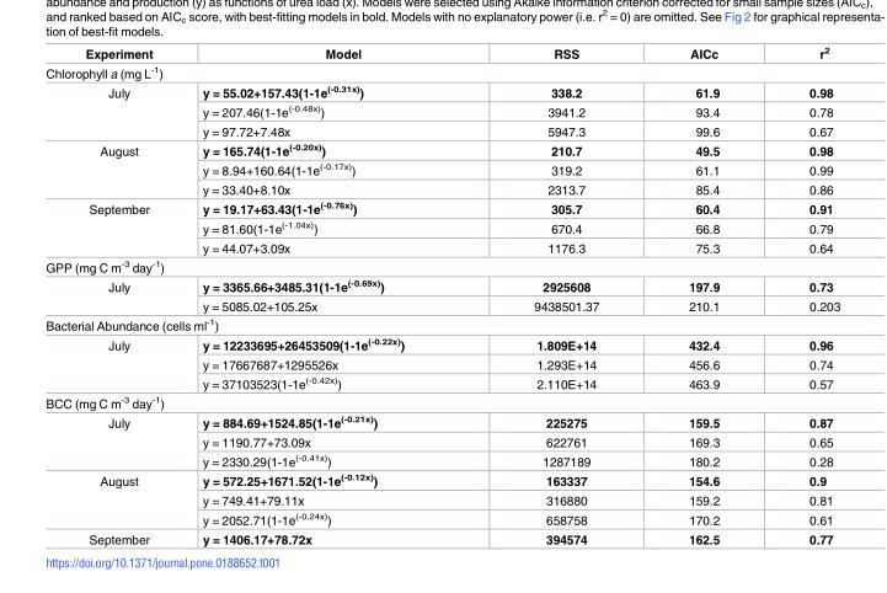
<table><thead><tr><td>Experiment</td><td>Model</td><td>RSS</td><td>AICc</td><td>r<sup>2</sup></td></tr></thead><tbody><tr><td colspan="5">Chlorophyll a (mg L<sup>-1</sup>)</td></tr><tr><td rowspan="3">July</td><td>y = 55.02+157.43(1-1e<sup>(-0.31x)</sup>)</td><td>338.2</td><td>61.9</td><td>0.98</td></tr><tr><td>y = 207.46(1-1e<sup>(-0.48x)</sup>)</td><td>3941.2</td><td>93.4</td><td>0.78</td></tr><tr><td>y = 97.72+7.48x</td><td>5947.3</td><td>99.6</td><td>0.67</td></tr><tr><td rowspan="3">August</td><td>y = 165.74(1-1e<sup>(-0.20x)</sup>)</td><td>210.7</td><td>49.5</td><td>0.98</td></tr><tr><td>y = 8.94+160.64(1-1e<sup>(-0.17x)</sup>)</td><td>319.2</td><td>61.1</td><td>0.99</td></tr><tr><td>y = 33.40+8.10x</td><td>2313.7</td><td>85.4</td><td>0.86</td></tr><tr><td rowspan="3">September</td><td>y = 19.17+63.43(1-1e<sup>(-0.76x)</sup>)</td><td>305.7</td><td>60.4</td><td>0.91</td></tr><tr><td>y = 81.60(1-1e<sup>(-1.04x)</sup>)</td><td>670.4</td><td>66.8</td><td>0.79</td></tr><tr><td>y = 44.07+3.09x</td><td>1176.3</td><td>75.3</td><td>0.64</td></tr><tr><td colspan="5">GPP (mg C m<sup>-3</sup> day<sup>-1</sup>)</td></tr><tr><td rowspan="2">July</td><td>y = 3365.66+3485.31(1-1e<sup>(-0.69x)</sup>)</td><td>2925608</td><td>197.9</td><td>0.73</td></tr><tr><td>y = 5085.02+105.25x</td><td>9438501.37</td><td>210.1</td><td>0.203</td></tr><tr><td colspan="5">Bacterial Abundance (cells ml<sup>-1</sup>)</td></tr><tr><td rowspan="3">July</td><td>y = 12233695+26453509(1-1e<sup>(-0.22x)</sup>)</td><td>1.809E+14</td><td>432.4</td><td>0.96</td></tr><tr><td>y = 17667687+1295526x</td><td>1.293E+14</td><td>456.6</td><td>0.74</td></tr><tr><td>y = 37103523(1-1e<sup>(-0.42x)</sup>)</td><td>2.110E+14</td><td>463.9</td><td>0.57</td></tr><tr><td colspan="5">BCC (mg C m<sup>-3</sup> day<sup>-1</sup>)</td></tr><tr><td rowspan="3">July</td><td>y = 884.69+1524.85(1-1e<sup>(-0.21x)</sup>)</td><td>225275</td><td>159.5</td><td>0.87</td></tr><tr><td>y = 1190.77+73.09x</td><td>622761</td><td>169.3</td><td>0.65</td></tr><tr><td>y = 2330.29(1-1e<sup>(-0.41x)</sup>)</td><td>1287189</td><td>180.2</td><td>0.28</td></tr><tr><td rowspan="3">August</td><td>y = 572.25+1671.52(1-1e<sup>(-0.12x)</sup>)</td><td>163337</td><td>154.6</td><td>0.9</td></tr><tr><td>y = 749.41+79.11x</td><td>316880</td><td>159.2</td><td>0.81</td></tr><tr><td>y = 2052.71(1-1e<sup>(-0.24x)</sup>)</td><td>658758</td><td>170.2</td><td>0.61</td></tr><tr><td>September</td><td>y = 1406.17+78.72x</td><td>394574</td><td>162.5</td><td>0.77</td></tr></tbody></table>